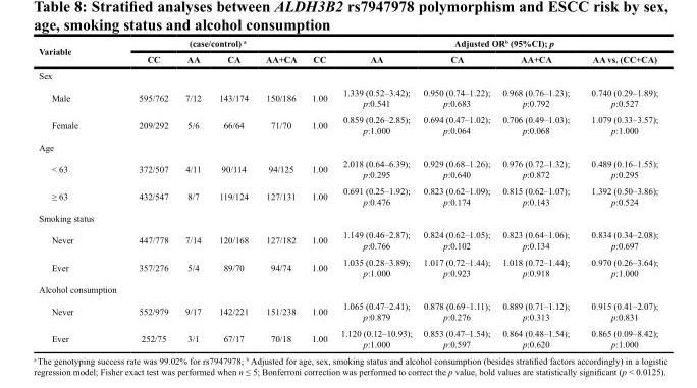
<table><thead><tr><td rowspan="2">Variable</td><td colspan="4">(case/control) <sup>a</sup></td><td colspan="5">Adjusted OR<sup>b</sup> (95%CI); p</td></tr><tr><td>CC</td><td>AA</td><td>CA</td><td>AA+CA</td><td>CC</td><td>AA</td><td>CA</td><td>AA+CA</td><td>AA vs. (CC+CA)</td></tr></thead><tbody><tr><td colspan="10">Sex</td></tr><tr><td>Male</td><td>595/762</td><td>7/12</td><td>143/174</td><td>150/186</td><td>1.00</td><td>1.339 (0.52–3.42); p:0.541</td><td>0.950 (0.74–1.22); p:0.683</td><td>0.968 (0.76–1.23); p:0.792</td><td>0.740 (0.29–1.89); p:0.527</td></tr><tr><td>Female</td><td>209/292</td><td>5/6</td><td>66/64</td><td>71/70</td><td>1.00</td><td>0.859 (0.26–2.85); p:1.000</td><td>0.694 (0.47–1.02); p:0.064</td><td>0.706 (0.49–1.03); p:0.068</td><td>1.079 (0.33–3.57); p:1.000</td></tr><tr><td colspan="10">Age</td></tr><tr><td>&lt; 63</td><td>372/507</td><td>4/11</td><td>90/114</td><td>94/125</td><td>1.00</td><td>2.018 (0.64–6.39); p:0.295</td><td>0.929 (0.68–1.26); p:0.640</td><td>0.976 (0.72–1.32); p:0.872</td><td>0.489 (0.16–1.55); p:0.295</td></tr><tr><td>≥ 63</td><td>432/547</td><td>8/7</td><td>119/124</td><td>127/131</td><td>1.00</td><td>0.691 (0.25–1.92); p:0.476</td><td>0.823 (0.62–1.09); p:0.174</td><td>0.815 (0.62–1.07); p:0.143</td><td>1.392 (0.50–3.86); p:0.524</td></tr><tr><td colspan="10">Smoking status</td></tr><tr><td>Never</td><td>447/778</td><td>7/14</td><td>120/168</td><td>127/182</td><td>1.00</td><td>1.149 (0.46–2.87); p:0.766</td><td>0.824 (0.62–1.05); p:0.102</td><td>0.823 (0.64–1.06); p:0.134</td><td>0.834 (0.34–2.08); p:0.697</td></tr><tr><td>Ever</td><td>357/276</td><td>5/4</td><td>89/70</td><td>94/74</td><td>1.00</td><td>1.035 (0.28–3.89); p:1.000</td><td>1.017 (0.72–1.44); p:0.923</td><td>1.018 (0.72–1.44); p:0.918</td><td>0.970 (0.26–3.64); p:1.000</td></tr><tr><td colspan="10">Alcohol consumption</td></tr><tr><td>Never</td><td>552/979</td><td>9/17</td><td>142/221</td><td>151/238</td><td>1.00</td><td>1.065 (0.47–2.41); p:0.879</td><td>0.878 (0.69–1.11); p:0.276</td><td>0.889 (0.71–1.12); p:0.313</td><td>0.915 (0.41–2.07); p:0.831</td></tr><tr><td>Ever</td><td>252/75</td><td>3/1</td><td>67/17</td><td>70/18</td><td>1.00</td><td>1.120 (0.12–10.93); p:1.000</td><td>0.853 (0.47–1.54); p:0.597</td><td>0.864 (0.48–1.54); p:0.620</td><td>0.865 (0.09–8.42); p:1.000</td></tr></tbody></table>